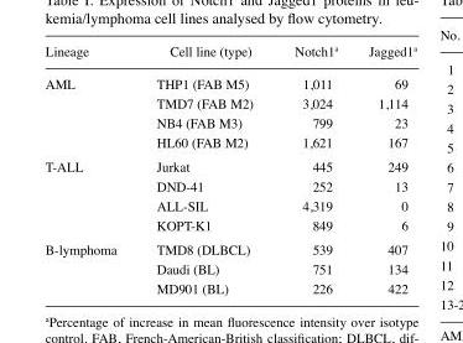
<table><thead><tr><td>Lineage</td><td>Cell line (type)</td><td>Notch1<sup>a</sup></td><td>Jagged1<sup>a</sup></td></tr></thead><tbody><tr><td rowspan="4">AML</td><td>THP1 (FAB M5)</td><td>1,011</td><td>69</td></tr><tr><td>TMD7 (FAB M2)</td><td>3,024</td><td>1,114</td></tr><tr><td>NB4 (FAB M3)</td><td>799</td><td>23</td></tr><tr><td>HL60 (FAB M2)</td><td>1,621</td><td>167</td></tr><tr><td rowspan="4">T-ALL</td><td>Jurkat</td><td>445</td><td>249</td></tr><tr><td>DND-41</td><td>252</td><td>13</td></tr><tr><td>ALL-SIL</td><td>4,319</td><td>0</td></tr><tr><td>KOPT-K1</td><td>849</td><td>6</td></tr><tr><td rowspan="3">B-lymphoma</td><td>TMD8 (DLBCL)</td><td>539</td><td>407</td></tr><tr><td>Daudi (BL)</td><td>751</td><td>134</td></tr><tr><td>MD901 (BL)</td><td>226</td><td>422</td></tr></tbody></table>